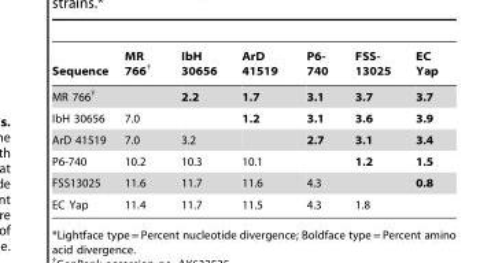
<table><thead><tr><td>Sequence</td><td>MR 766†</td><td>IbH 30656</td><td>ArD 41519</td><td>P6- 740</td><td>FSS- 13025</td><td>EC Yap</td></tr></thead><tbody><tr><td>MR 766†</td><td></td><td>2.2</td><td>1.7</td><td>3.1</td><td>3.7</td><td>3.7</td></tr><tr><td>IbH 30656</td><td>7.0</td><td></td><td>1.2</td><td>3.1</td><td>3.6</td><td>3.9</td></tr><tr><td>ArD 41519</td><td>7.0</td><td>3.2</td><td></td><td>2.7</td><td>3.1</td><td>3.4</td></tr><tr><td>P6-740</td><td>10.2</td><td>10.3</td><td>10.1</td><td></td><td>1.2</td><td>1.5</td></tr><tr><td>FSS13025</td><td>11.6</td><td>11.7</td><td>11.6</td><td>4.3</td><td></td><td>0.8</td></tr><tr><td>EC Yap</td><td>11.4</td><td>11.7</td><td>11.5</td><td>4.3</td><td>1.8</td><td></td></tr></tbody></table>